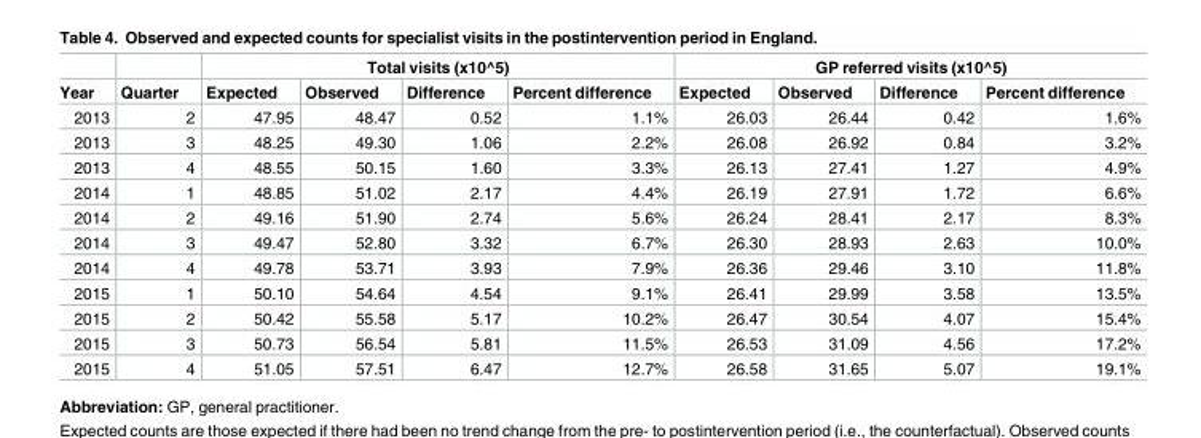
<table><thead><tr><td rowspan="2">Year</td><td rowspan="2">Quarter</td><td colspan="4">Total visits (x10^5)</td><td colspan="4">GP referred visits (x10^5)</td></tr><tr><td>Expected</td><td>Observed</td><td>Difference</td><td>Percent difference</td><td>Expected</td><td>Observed</td><td>Difference</td><td>Percent difference</td></tr></thead><tbody><tr><td>2013</td><td>2</td><td>47.95</td><td>48.47</td><td>0.52</td><td>1.1%</td><td>26.03</td><td>26.44</td><td>0.42</td><td>1.6%</td></tr><tr><td>2013</td><td>3</td><td>48.25</td><td>49.30</td><td>1.06</td><td>2.2%</td><td>26.08</td><td>26.92</td><td>0.84</td><td>3.2%</td></tr><tr><td>2013</td><td>4</td><td>48.55</td><td>50.15</td><td>1.60</td><td>3.3%</td><td>26.13</td><td>27.41</td><td>1.27</td><td>4.9%</td></tr><tr><td>2014</td><td>1</td><td>48.85</td><td>51.02</td><td>2.17</td><td>4.4%</td><td>26.19</td><td>27.91</td><td>1.72</td><td>6.6%</td></tr><tr><td>2014</td><td>2</td><td>49.16</td><td>51.90</td><td>2.74</td><td>5.6%</td><td>26.24</td><td>28.41</td><td>2.17</td><td>8.3%</td></tr><tr><td>2014</td><td>3</td><td>49.47</td><td>52.80</td><td>3.32</td><td>6.7%</td><td>26.30</td><td>28.93</td><td>2.63</td><td>10.0%</td></tr><tr><td>2014</td><td>4</td><td>49.78</td><td>53.71</td><td>3.93</td><td>7.9%</td><td>26.36</td><td>29.46</td><td>3.10</td><td>11.8%</td></tr><tr><td>2015</td><td>1</td><td>50.10</td><td>54.64</td><td>4.54</td><td>9.1%</td><td>26.41</td><td>29.99</td><td>3.58</td><td>13.5%</td></tr><tr><td>2015</td><td>2</td><td>50.42</td><td>55.58</td><td>5.17</td><td>10.2%</td><td>26.47</td><td>30.54</td><td>4.07</td><td>15.4%</td></tr><tr><td>2015</td><td>3</td><td>50.73</td><td>56.54</td><td>5.81</td><td>11.5%</td><td>26.53</td><td>31.09</td><td>4.56</td><td>17.2%</td></tr><tr><td>2015</td><td>4</td><td>51.05</td><td>57.51</td><td>6.47</td><td>12.7%</td><td>26.58</td><td>31.65</td><td>5.07</td><td>19.1%</td></tr></tbody></table>